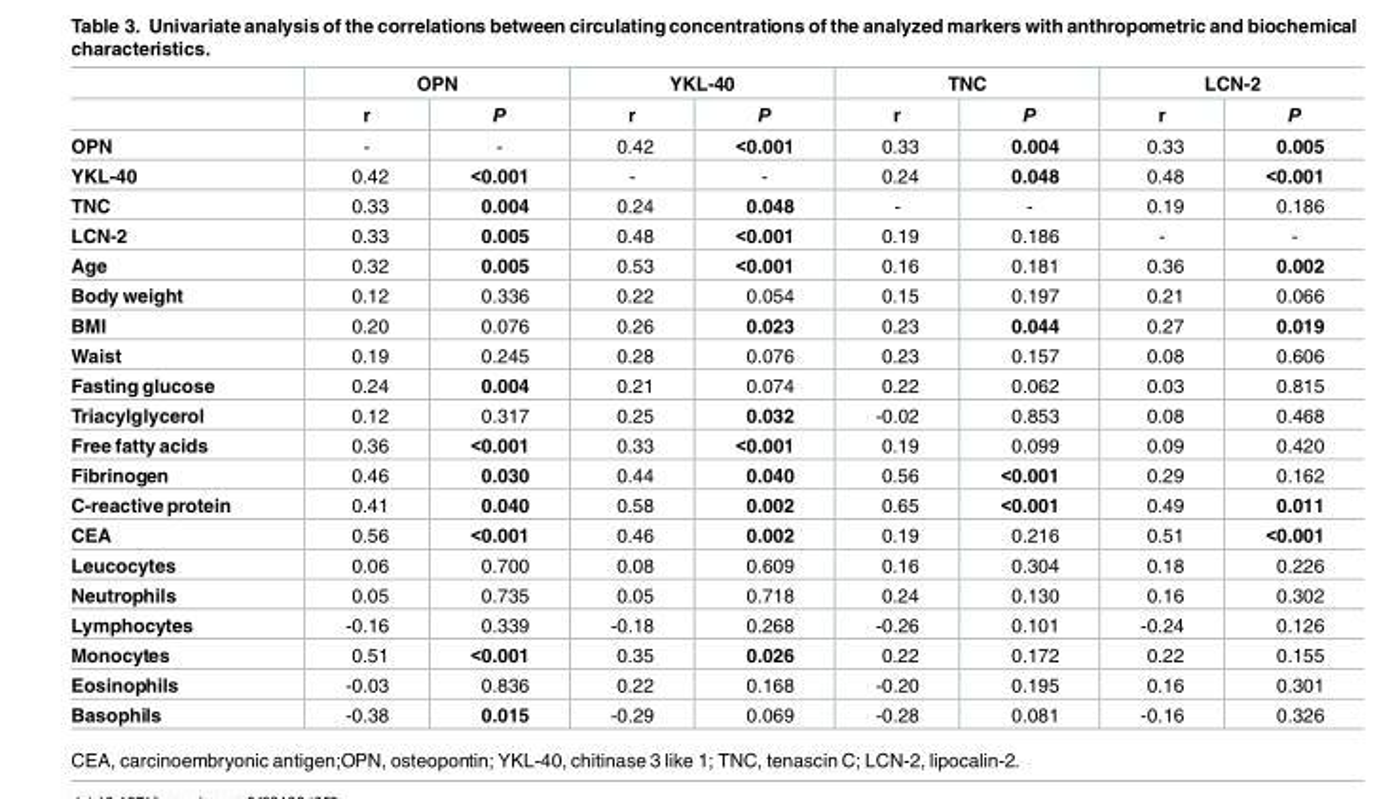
<table><thead><tr><td rowspan="2"></td><td colspan="2">OPN</td><td colspan="2">YKL-40</td><td colspan="2">TNC</td><td colspan="2">LCN-2</td></tr><tr><td>r</td><td>P</td><td>r</td><td>P</td><td>r</td><td>P</td><td>r</td><td>P</td></tr></thead><tbody><tr><td>OPN</td><td>-</td><td>-</td><td>0.42</td><td>&lt;0.001</td><td>0.33</td><td>0.004</td><td>0.33</td><td>0.005</td></tr><tr><td>YKL-40</td><td>0.42</td><td>&lt;0.001</td><td>-</td><td>-</td><td>0.24</td><td>0.048</td><td>0.48</td><td>&lt;0.001</td></tr><tr><td>TNC</td><td>0.33</td><td>0.004</td><td>0.24</td><td>0.048</td><td>-</td><td>-</td><td>0.19</td><td>0.186</td></tr><tr><td>LCN-2</td><td>0.33</td><td>0.005</td><td>0.48</td><td>&lt;0.001</td><td>0.19</td><td>0.186</td><td>-</td><td>-</td></tr><tr><td>Age</td><td>0.32</td><td>0.005</td><td>0.53</td><td>&lt;0.001</td><td>0.16</td><td>0.181</td><td>0.36</td><td>0.002</td></tr><tr><td>Body weight</td><td>0.12</td><td>0.336</td><td>0.22</td><td>0.054</td><td>0.15</td><td>0.197</td><td>0.21</td><td>0.066</td></tr><tr><td>BMI</td><td>0.20</td><td>0.076</td><td>0.26</td><td>0.023</td><td>0.23</td><td>0.044</td><td>0.27</td><td>0.019</td></tr><tr><td>Waist</td><td>0.19</td><td>0.245</td><td>0.28</td><td>0.076</td><td>0.23</td><td>0.157</td><td>0.08</td><td>0.606</td></tr><tr><td>Fasting glucose</td><td>0.24</td><td>0.004</td><td>0.21</td><td>0.074</td><td>0.22</td><td>0.062</td><td>0.03</td><td>0.815</td></tr><tr><td>Triacylglycerol</td><td>0.12</td><td>0.317</td><td>0.25</td><td>0.032</td><td>-0.02</td><td>0.853</td><td>0.08</td><td>0.468</td></tr><tr><td>Free fatty acids</td><td>0.36</td><td>&lt;0.001</td><td>0.33</td><td>&lt;0.001</td><td>0.19</td><td>0.099</td><td>0.09</td><td>0.420</td></tr><tr><td>Fibrinogen</td><td>0.46</td><td>0.030</td><td>0.44</td><td>0.040</td><td>0.56</td><td>&lt;0.001</td><td>0.29</td><td>0.162</td></tr><tr><td>C-reactive protein</td><td>0.41</td><td>0.040</td><td>0.58</td><td>0.002</td><td>0.65</td><td>&lt;0.001</td><td>0.49</td><td>0.011</td></tr><tr><td>CEA</td><td>0.56</td><td>&lt;0.001</td><td>0.46</td><td>0.002</td><td>0.19</td><td>0.216</td><td>0.51</td><td>&lt;0.001</td></tr><tr><td>Leucocytes</td><td>0.06</td><td>0.700</td><td>0.08</td><td>0.609</td><td>0.16</td><td>0.304</td><td>0.18</td><td>0.226</td></tr><tr><td>Neutrophils</td><td>0.05</td><td>0.735</td><td>0.05</td><td>0.718</td><td>0.24</td><td>0.130</td><td>0.16</td><td>0.302</td></tr><tr><td>Lymphocytes</td><td>-0.16</td><td>0.339</td><td>-0.18</td><td>0.268</td><td>-0.26</td><td>0.101</td><td>-0.24</td><td>0.126</td></tr><tr><td>Monocytes</td><td>0.51</td><td>&lt;0.001</td><td>0.35</td><td>0.026</td><td>0.22</td><td>0.172</td><td>0.22</td><td>0.155</td></tr><tr><td>Eosinophils</td><td>-0.03</td><td>0.836</td><td>0.22</td><td>0.168</td><td>-0.20</td><td>0.195</td><td>0.16</td><td>0.301</td></tr><tr><td>Basophils</td><td>-0.38</td><td>0.015</td><td>-0.29</td><td>0.069</td><td>-0.28</td><td>0.081</td><td>-0.16</td><td>0.326</td></tr></tbody></table>